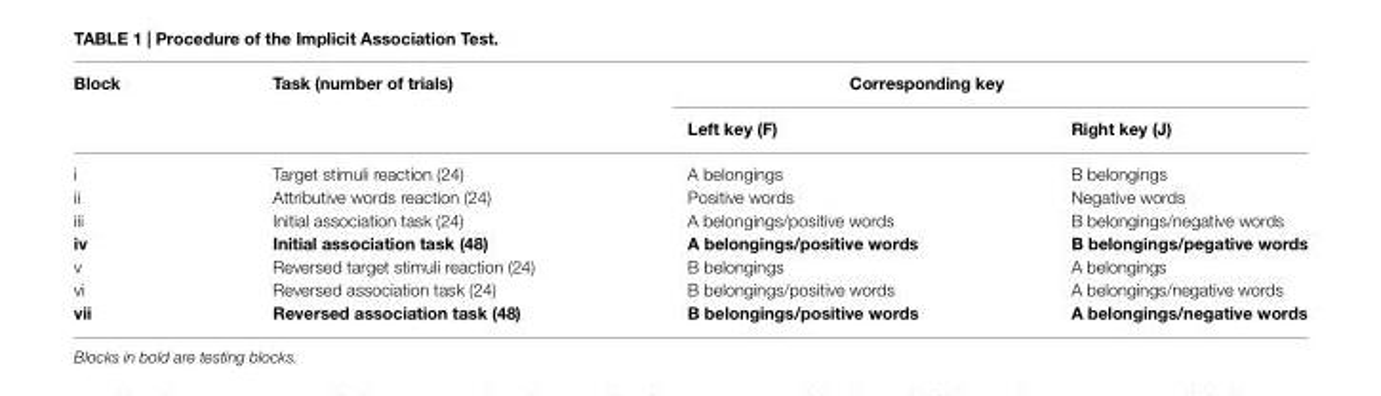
<table><thead><tr><td rowspan="2">Block</td><td rowspan="2">Task (number of trials)</td><td colspan="2">Corresponding key</td></tr><tr><td>Left key (F)</td><td>Right key (J)</td></tr></thead><tbody><tr><td>i</td><td>Target stimuli reaction (24)</td><td>A belongings</td><td>B belongings</td></tr><tr><td>ii</td><td>Attributive words reaction (24)</td><td>Positive words</td><td>Negative words</td></tr><tr><td>iii</td><td>Initial association task (24)</td><td>A belongings/positive words</td><td>B belongings/negative words</td></tr><tr><td>iv</td><td>Initial association task (48)</td><td>A belongings/positive words</td><td>B belongings/pegative words</td></tr><tr><td>v</td><td>Reversed target stimuli reaction (24)</td><td>B belongings</td><td>A belongings</td></tr><tr><td>vi</td><td>Reversed association task (24)</td><td>B belongings/positive words</td><td>A belongings/negative words</td></tr><tr><td>vii</td><td>Reversed association task (48)</td><td>B belongings/positive words</td><td>A belongings/negative words</td></tr></tbody></table>